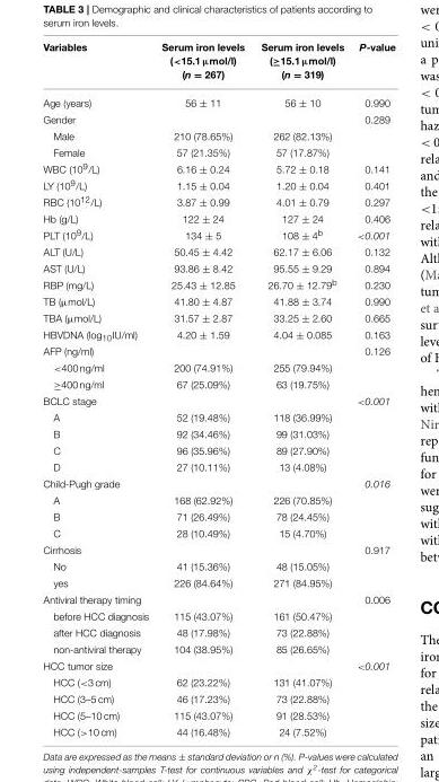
<table><thead><tr><td>Variables</td><td>Serum iron levels (&lt;15.1 µmol/l) (n = 267)</td><td>Serum iron levels (≥15.1 µmol/l) (n = 319)</td><td>P-value</td></tr></thead><tbody><tr><td>Age (years)</td><td>56 ± 11</td><td>56 ± 10</td><td>0.990</td></tr><tr><td>Gender</td><td></td><td></td><td>0.289</td></tr><tr><td>Male</td><td>210 (78.65%)</td><td>262 (82.13%)</td><td></td></tr><tr><td>Female</td><td>57 (21.35%)</td><td>57 (17.87%)</td><td></td></tr><tr><td>WBC (10<sup>9</sup>/L)</td><td>6.16 ± 0.24</td><td>5.72 ± 0.18</td><td>0.141</td></tr><tr><td>LY (10<sup>9</sup>/L)</td><td>1.15 ± 0.04</td><td>1.20 ± 0.04</td><td>0.401</td></tr><tr><td>RBC (10<sup>12</sup>/L)</td><td>3.87 ± 0.99</td><td>4.01 ± 0.79</td><td>0.297</td></tr><tr><td>Hb (g/L)</td><td>122 ± 24</td><td>127 ± 24</td><td>0.406</td></tr><tr><td>PLT (10<sup>9</sup>/L)</td><td>134 ± 5</td><td>108 ± 4<sup>b</sup></td><td>&lt;0.001</td></tr><tr><td>ALT (U/L)</td><td>50.45 ± 4.42</td><td>62.17 ± 6.06</td><td>0.132</td></tr><tr><td>AST (U/L)</td><td>93.86 ± 8.42</td><td>95.55 ± 9.29</td><td>0.894</td></tr><tr><td>RBP (mg/L)</td><td>25.43 ± 12.85</td><td>26.70 ± 12.79<sup>b</sup></td><td>0.230</td></tr><tr><td>TB (µmol/L)</td><td>41.80 ± 4.87</td><td>41.88 ± 3.74</td><td>0.990</td></tr><tr><td>TBA (µmol/L)</td><td>31.57 ± 2.87</td><td>33.25 ± 2.60</td><td>0.665</td></tr><tr><td>HBVDNA (log<sub>10</sub>IU/ml)</td><td>4.20 ± 1.59</td><td>4.04 ± 0.085</td><td>0.163</td></tr><tr><td>AFP (ng/ml)</td><td></td><td></td><td>0.126</td></tr><tr><td>&lt;400 ng/ml</td><td>200 (74.91%)</td><td>255 (79.94%)</td><td></td></tr><tr><td>≥400 ng/ml</td><td>67 (25.09%)</td><td>63 (19.75%)</td><td></td></tr><tr><td>BCLC stage</td><td></td><td></td><td>&lt;0.001</td></tr><tr><td>A</td><td>52 (19.48%)</td><td>118 (36.99%)</td><td></td></tr><tr><td>B</td><td>92 (34.46%)</td><td>99 (31.03%)</td><td></td></tr><tr><td>C</td><td>96 (35.96%)</td><td>89 (27.90%)</td><td></td></tr><tr><td>D</td><td>27 (10.11%)</td><td>13 (4.08%)</td><td></td></tr><tr><td>Child-Pugh grade</td><td></td><td></td><td>0.016</td></tr><tr><td>A</td><td>168 (62.92%)</td><td>226 (70.85%)</td><td></td></tr><tr><td>B</td><td>71 (26.49%)</td><td>78 (24.45%)</td><td></td></tr><tr><td>C</td><td>28 (10.49%)</td><td>15 (4.70%)</td><td></td></tr><tr><td>Cirrhosis</td><td></td><td></td><td>0.917</td></tr><tr><td>No</td><td>41 (15.36%)</td><td>48 (15.05%)</td><td></td></tr><tr><td>yes</td><td>226 (84.64%)</td><td>271 (84.95%)</td><td></td></tr><tr><td>Antiviral therapy timing</td><td></td><td></td><td>0.006</td></tr><tr><td>before HCC diagnosis</td><td>115 (43.07%)</td><td>161 (50.47%)</td><td></td></tr><tr><td>after HCC diagnosis</td><td>48 (17.98%)</td><td>73 (22.88%)</td><td></td></tr><tr><td>non-antiviral therapy</td><td>104 (38.95%)</td><td>85 (26.65%)</td><td></td></tr><tr><td>HCC tumor size</td><td></td><td></td><td>&lt;0.001</td></tr><tr><td>HCC (&lt;3 cm)</td><td>62 (23.22%)</td><td>131 (41.07%)</td><td></td></tr><tr><td>HCC (3–5 cm)</td><td>46 (17.23%)</td><td>73 (22.88%)</td><td></td></tr><tr><td>HCC (5–10 cm)</td><td>115 (43.07%)</td><td>91 (28.53%)</td><td></td></tr><tr><td>HCC (&gt;10 cm)</td><td>44 (16.48%)</td><td>24 (7.52%)</td><td></td></tr></tbody></table>